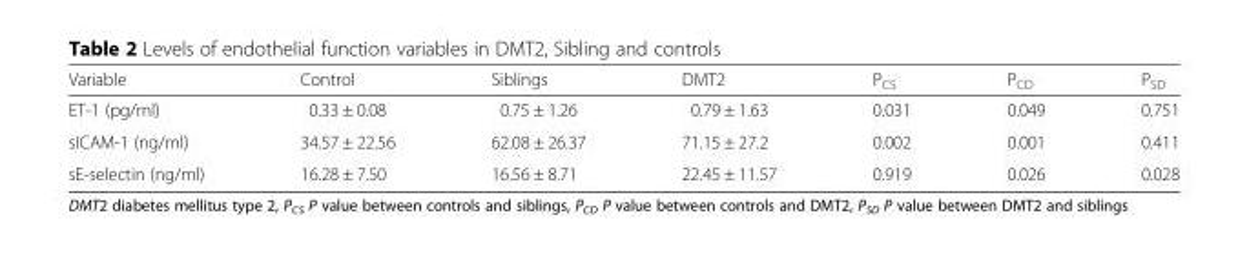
<table><thead><tr><td>Variable</td><td>Control</td><td>Siblings</td><td>DMT2</td><td>P<sub>CS</sub></td><td>P<sub>CD</sub></td><td>P<sub>SD</sub></td></tr></thead><tbody><tr><td>ET-1 (pg/ml)</td><td>0.33 ± 0.08</td><td>0.75 ± 1.26</td><td>0.79 ± 1.63</td><td>0.031</td><td>0.049</td><td>0.751</td></tr><tr><td>sICAM-1 (ng/ml)</td><td>34.57 ± 22.56</td><td>62.08 ± 26.37</td><td>71.15 ± 27.2</td><td>0.002</td><td>0.001</td><td>0.411</td></tr><tr><td>sE-selectin (ng/ml)</td><td>16.28 ± 7.50</td><td>16.56 ± 8.71</td><td>22.45 ± 11.57</td><td>0.919</td><td>0.026</td><td>0.028</td></tr></tbody></table>